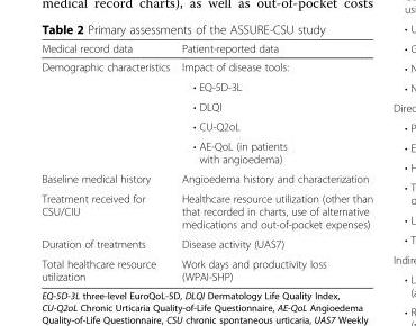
<table><thead><tr><td>Medical record data</td><td>Patient-reported data</td></tr></thead><tbody><tr><td rowspan="5">Demographic characteristics</td><td>Impact of disease tools:</td></tr><tr><td>• EQ-5D-3L</td></tr><tr><td>• DLQI</td></tr><tr><td>• CU-Q2oL</td></tr><tr><td>• AE-QoL (in patients with angioedema)</td></tr><tr><td>Baseline medical history</td><td>Angioedema history and characterization</td></tr><tr><td>Treatment received for CSU/CIU</td><td>Healthcare resource utilization (other than that recorded in charts, use of alternative medications and out-of-pocket expenses)</td></tr><tr><td>Duration of treatments</td><td>Disease activity (UAS7)</td></tr><tr><td>Total healthcare resource utilization</td><td>Work days and productivity loss (WPAI-SHP)</td></tr></tbody></table>